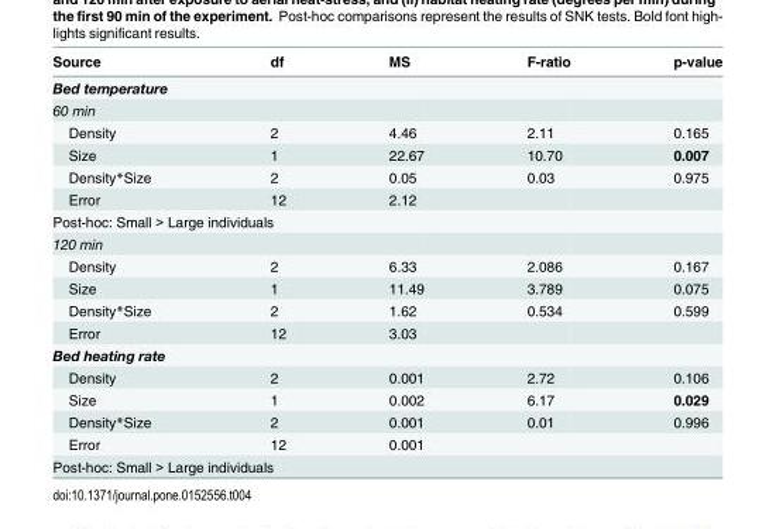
<table><thead><tr><td>Source</td><td>df</td><td>MS</td><td>F-ratio</td><td>p-value</td></tr></thead><tbody><tr><td colspan="5">Bed temperature</td></tr><tr><td colspan="5">60 min</td></tr><tr><td>Density</td><td>2</td><td>4.46</td><td>2.11</td><td>0.165</td></tr><tr><td>Size</td><td>1</td><td>22.67</td><td>10.70</td><td>0.007</td></tr><tr><td>Density*Size</td><td>2</td><td>0.05</td><td>0.03</td><td>0.975</td></tr><tr><td>Error</td><td>12</td><td>2.12</td><td></td><td></td></tr><tr><td colspan="5">Post-hoc: Small &gt; Large individuals</td></tr><tr><td colspan="5">120 min</td></tr><tr><td>Density</td><td>2</td><td>6.33</td><td>2.086</td><td>0.167</td></tr><tr><td>Size</td><td>1</td><td>11.49</td><td>3.789</td><td>0.075</td></tr><tr><td>Density*Size</td><td>2</td><td>1.62</td><td>0.534</td><td>0.599</td></tr><tr><td>Error</td><td>12</td><td>3.03</td><td></td><td></td></tr><tr><td colspan="5">Bed heating rate</td></tr><tr><td>Density</td><td>2</td><td>0.001</td><td>2.72</td><td>0.106</td></tr><tr><td>Size</td><td>1</td><td>0.002</td><td>6.17</td><td>0.029</td></tr><tr><td>Density*Size</td><td>2</td><td>0.001</td><td>0.01</td><td>0.996</td></tr><tr><td>Error</td><td>12</td><td>0.001</td><td></td><td></td></tr><tr><td colspan="5">Post-hoc: Small &gt; Large individuals</td></tr></tbody></table>